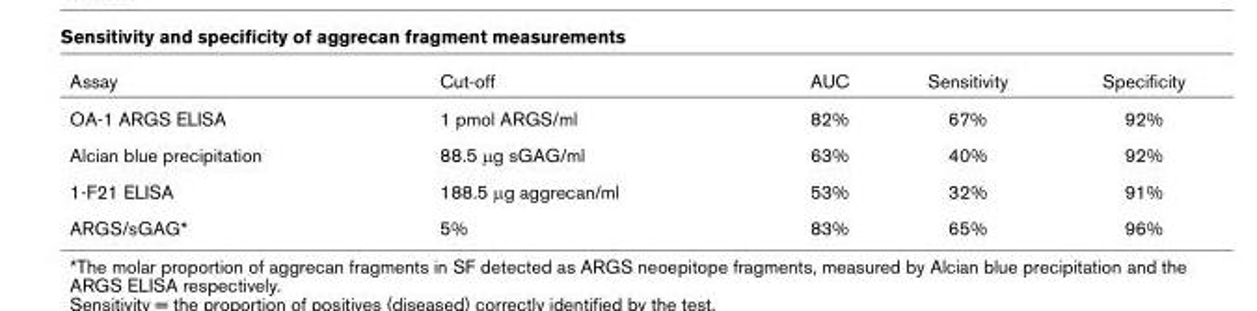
<table><thead><tr><td>Assay</td><td>Cut-off</td><td>AUC</td><td>Sensitivity</td><td>Specificity</td></tr></thead><tbody><tr><td>OA-1 ARGS ELISA</td><td>1 pmol ARGS/ml</td><td>82%</td><td>67%</td><td>92%</td></tr><tr><td>Alcian blue precipitation</td><td>88.5 μg sGAG/ml</td><td>63%</td><td>40%</td><td>92%</td></tr><tr><td>1-F21 ELISA</td><td>188.5 μg aggrecan/ml</td><td>53%</td><td>32%</td><td>91%</td></tr><tr><td>ARGS/sGAG*</td><td>5%</td><td>83%</td><td>65%</td><td>96%</td></tr></tbody></table>